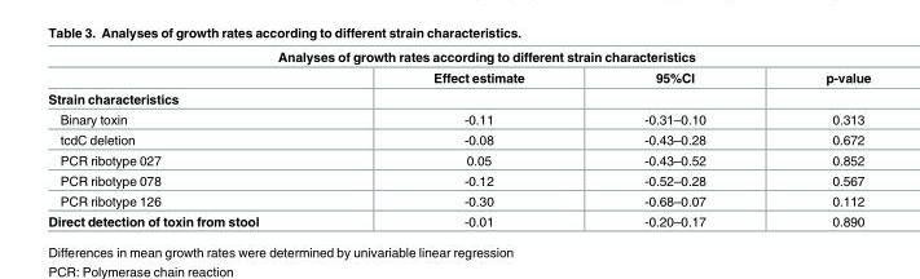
<table><thead><tr><td colspan="4">Analyses of growth rates according to different strain characteristics</td></tr><tr><td></td><td>Effect estimate</td><td>95%CI</td><td>p-value</td></tr></thead><tbody><tr><td colspan="4">Strain characteristics</td></tr><tr><td>Binary toxin</td><td>-0.11</td><td>-0.31–0.10</td><td>0.313</td></tr><tr><td>tcdC deletion</td><td>-0.08</td><td>-0.43–0.28</td><td>0.672</td></tr><tr><td>PCR ribotype 027</td><td>0.05</td><td>-0.43–0.52</td><td>0.852</td></tr><tr><td>PCR ribotype 078</td><td>-0.12</td><td>-0.52–0.28</td><td>0.567</td></tr><tr><td>PCR ribotype 126</td><td>-0.30</td><td>-0.68–0.07</td><td>0.112</td></tr><tr><td>Direct detection of toxin from stool</td><td>-0.01</td><td>-0.20–0.17</td><td>0.890</td></tr></tbody></table>